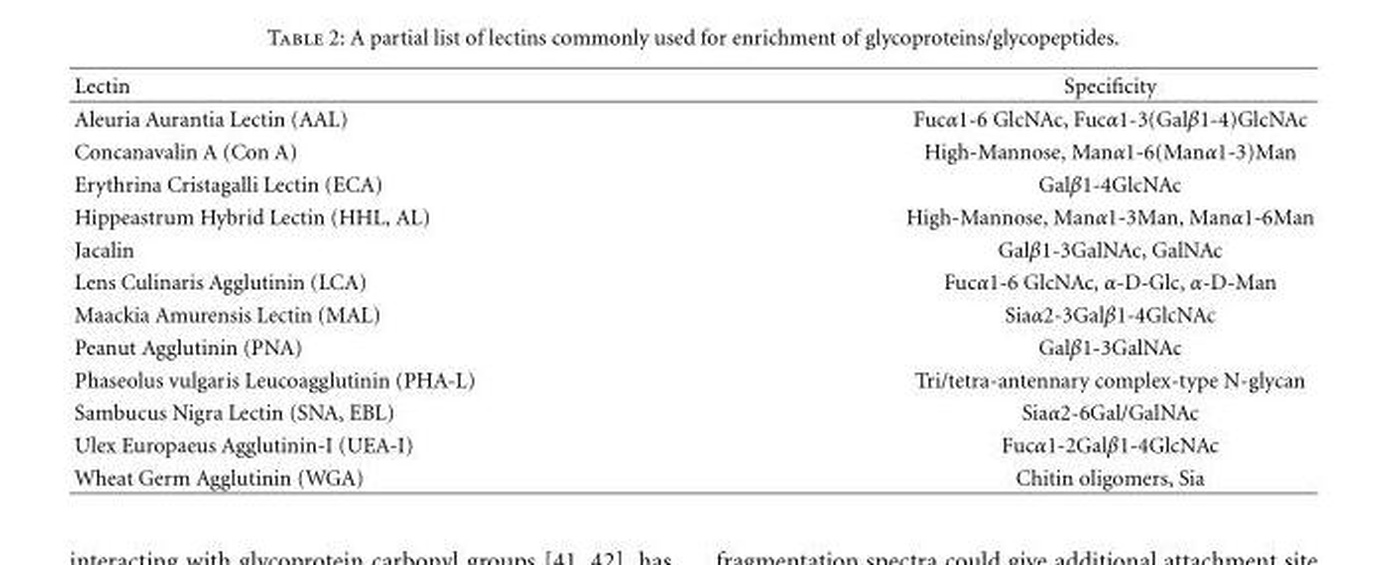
<table><thead><tr><td>Lectin</td><td>Specificity</td></tr></thead><tbody><tr><td>Aleuria Aurantia Lectin (AAL)</td><td>Fucα1-6 GlcNAc, Fucα1-3(Galβ1-4)GlcNAc</td></tr><tr><td>Concanavalin A (Con A)</td><td>High-Mannose, Manα1-6(Manα1-3)Man</td></tr><tr><td>Erythrina Cristagalli Lectin (ECA)</td><td>Galβ1-4GlcNAc</td></tr><tr><td>Hippeastrum Hybrid Lectin (HHL, AL)</td><td>High-Mannose, Manα1-3Man, Manα1-6Man</td></tr><tr><td>Jacalin</td><td>Galβ1-3GalNAc, GalNAc</td></tr><tr><td>Lens Culinaris Agglutinin (LCA)</td><td>Fucα1-6 GlcNAc, α-D-Glc, α-D-Man</td></tr><tr><td>Maackia Amurensis Lectin (MAL)</td><td>Siaα2-3Galβ1-4GlcNAc</td></tr><tr><td>Peanut Agglutinin (PNA)</td><td>Galβ1-3GalNAc</td></tr><tr><td>Phaseolus vulgaris Leucoagglutinin (PHA-L)</td><td>Tri/tetra-antennary complex-type N-glycan</td></tr><tr><td>Sambucus Nigra Lectin (SNA, EBL)</td><td>Siaα2-6Gal/GalNAc</td></tr><tr><td>Ulex Europaeus Agglutinin-I (UEA-I)</td><td>Fucα1-2Galβ1-4GlcNAc</td></tr><tr><td>Wheat Germ Agglutinin (WGA)</td><td>Chitin oligomers, Sia</td></tr></tbody></table>